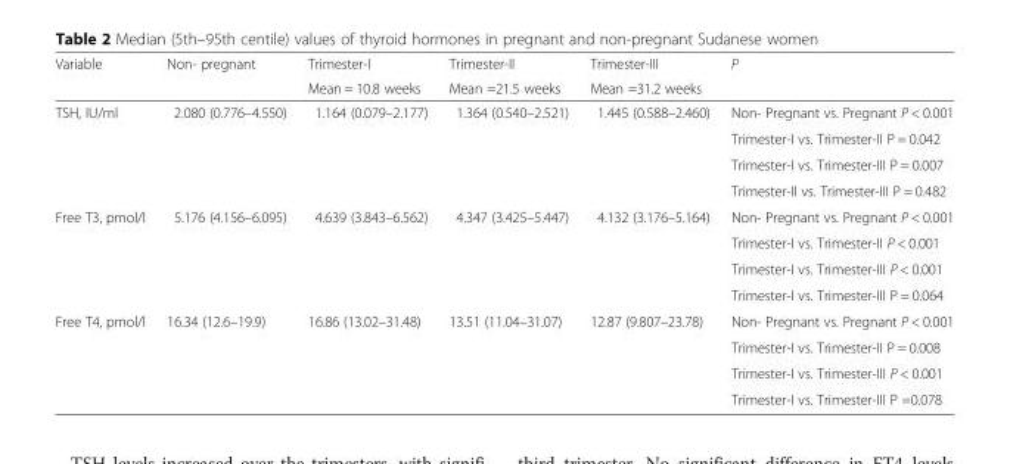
<table><thead><tr><td rowspan="2">Variable</td><td rowspan="2">Non- pregnant</td><td rowspan="2">Trimester-I Mean = 10.8 weeks</td><td rowspan="2">Trimester-II Mean =21.5 weeks</td><td rowspan="2">Trimester-III Mean =31.2 weeks</td><td rowspan="2">P</td></tr><tr></tr></thead><tbody><tr><td rowspan="4">TSH, IU/ml</td><td rowspan="4">2.080 (0.776–4.550)</td><td rowspan="4">1.164 (0.079–2.177)</td><td rowspan="4">1.364 (0.540–2.521)</td><td rowspan="4">1.445 (0.588–2.460)</td><td>Non- Pregnant vs. Pregnant P &lt; 0.001</td></tr><tr><td>Trimester-I vs. Trimester-II P = 0.042</td></tr><tr><td>Trimester-I vs. Trimester-III P = 0.007</td></tr><tr><td>Trimester-II vs. Trimester-III P = 0.482</td></tr><tr><td rowspan="4">Free T3, pmol/l</td><td rowspan="4">5.176 (4.156–6.095)</td><td rowspan="4">4.639 (3.843–6.562)</td><td rowspan="4">4.347 (3.425–5.447)</td><td rowspan="4">4.132 (3.176–5.164)</td><td>Non- Pregnant vs. Pregnant P &lt; 0.001</td></tr><tr><td>Trimester-I vs. Trimester-II P &lt; 0.001</td></tr><tr><td>Trimester-I vs. Trimester-III P &lt; 0.001</td></tr><tr><td>Trimester-I vs. Trimester-III P = 0.064</td></tr><tr><td rowspan="4">Free T4, pmol/l</td><td rowspan="4">16.34 (12.6–19.9)</td><td rowspan="4">16.86 (13.02–31.48)</td><td rowspan="4">13.51 (11.04–31.07)</td><td rowspan="4">12.87 (9.807–23.78)</td><td>Non- Pregnant vs. Pregnant P &lt; 0.001</td></tr><tr><td>Trimester-I vs. Trimester-II P = 0.008</td></tr><tr><td>Trimester-I vs. Trimester-III P &lt; 0.001</td></tr><tr><td>Trimester-I vs. Trimester-III P =0.078</td></tr></tbody></table>